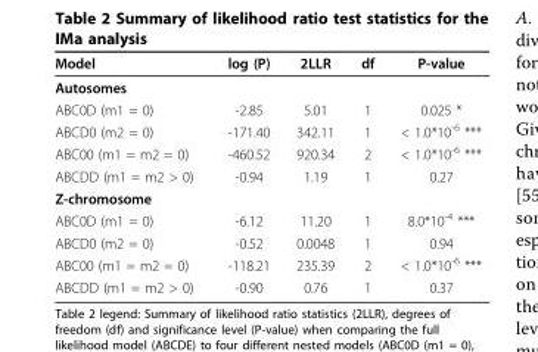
<table><thead><tr><td>Model</td><td>log (P)</td><td>2LLR</td><td>df</td><td>P-value</td></tr></thead><tbody><tr><td colspan="5">Autosomes</td></tr><tr><td>ABC0D (m1 = 0)</td><td>-2.85</td><td>5.01</td><td>1</td><td>0.025 *</td></tr><tr><td>ABCD0 (m2 = 0)</td><td>-171.40</td><td>342.11</td><td>1</td><td>&lt; 1.0*10<sup>-6</sup> ***</td></tr><tr><td>ABC00 (m1 = m2 = 0)</td><td>-460.52</td><td>920.34</td><td>2</td><td>&lt; 1.0*10<sup>-6</sup> ***</td></tr><tr><td>ABCDD (m1 = m2 &gt; 0)</td><td>-0.94</td><td>1.19</td><td>1</td><td>0.27</td></tr><tr><td colspan="5">Z-chromosome</td></tr><tr><td>ABC0D (m1 = 0)</td><td>-6.12</td><td>11.20</td><td>1</td><td>8.0*10<sup>-4</sup> ***</td></tr><tr><td>ABCD0 (m2 = 0)</td><td>-0.52</td><td>0.0048</td><td>1</td><td>0.94</td></tr><tr><td>ABC00 (m1 = m2 = 0)</td><td>-118.21</td><td>235.39</td><td>2</td><td>&lt; 1.0*10<sup>-6</sup> ***</td></tr><tr><td>ABCDD (m1 = m2 &gt; 0)</td><td>-0.90</td><td>0.76</td><td>1</td><td>0.37</td></tr></tbody></table>